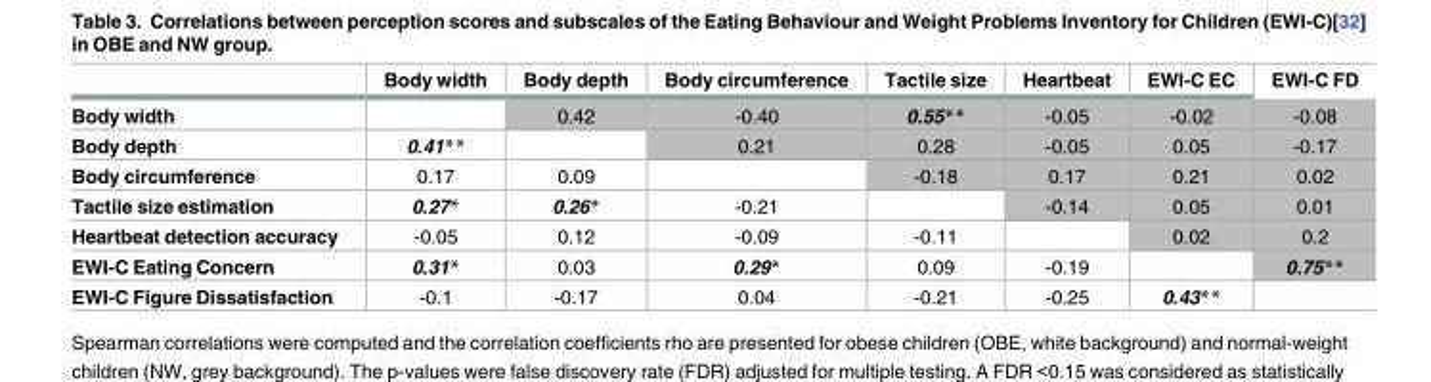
<table><thead><tr><td></td><td>Body width</td><td>Body depth</td><td>Body circumference</td><td>Tactile size</td><td>Heartbeat</td><td>EWI-C EC</td><td>EWI-C FD</td></tr></thead><tbody><tr><td>Body width</td><td></td><td>0.42</td><td>-0.40</td><td>0.55**</td><td>-0.05</td><td>-0.02</td><td>-0.08</td></tr><tr><td>Body depth</td><td>0.41**</td><td></td><td>0.21</td><td>0.28</td><td>-0.05</td><td>0.05</td><td>-0.17</td></tr><tr><td>Body circumference</td><td>0.17</td><td>0.09</td><td></td><td>-0.18</td><td>0.17</td><td>0.21</td><td>0.02</td></tr><tr><td>Tactile size estimation</td><td>0.27*</td><td>0.26*</td><td>-0.21</td><td></td><td>-0.14</td><td>0.05</td><td>0.01</td></tr><tr><td>Heartbeat detection accuracy</td><td>-0.05</td><td>0.12</td><td>-0.09</td><td>-0.11</td><td></td><td>0.02</td><td>0.2</td></tr><tr><td>EWI-C Eating Concern</td><td>0.31*</td><td>0.03</td><td>0.29*</td><td>0.09</td><td>-0.19</td><td></td><td>0.75**</td></tr><tr><td>EWI-C Figure Dissatisfaction</td><td>-0.1</td><td>-0.17</td><td>0.04</td><td>-0.21</td><td>-0.25</td><td>0.43**</td><td></td></tr></tbody></table>